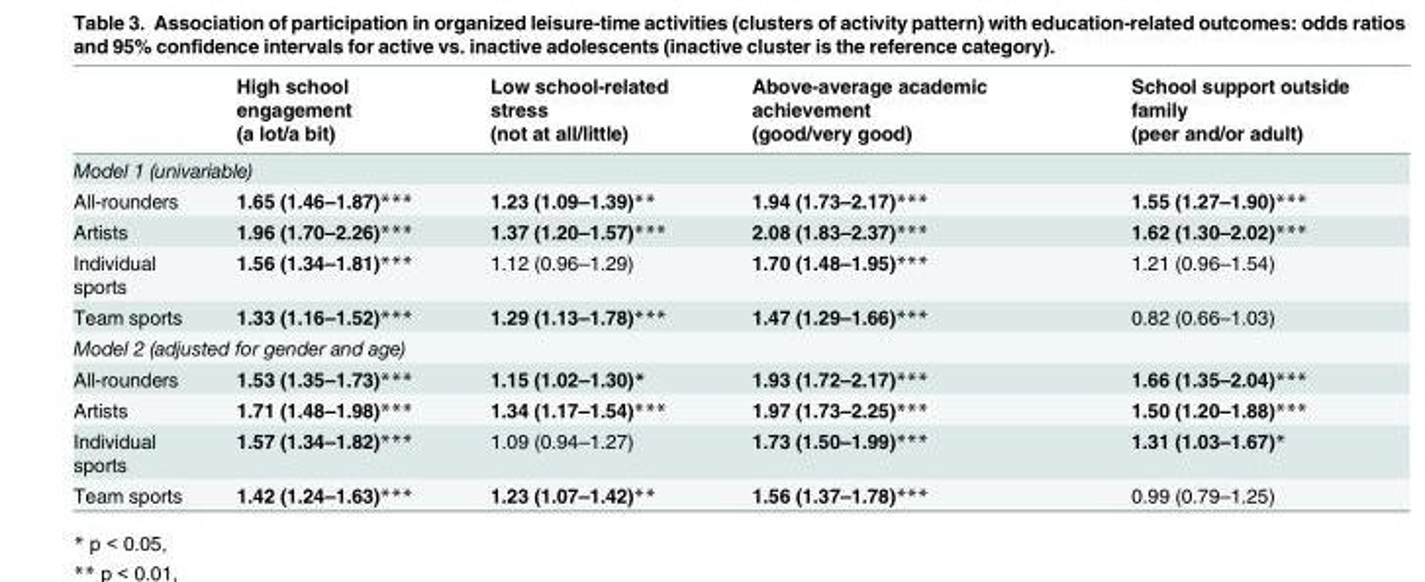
<table><thead><tr><td rowspan="2"></td><td rowspan="2">High school engagement (a lot/a bit)</td><td rowspan="2">Low school-related stress (not at all/little)</td><td rowspan="2">Above-average academic achievement (good/very good)</td><td rowspan="2">School support outside family (peer and/or adult)</td></tr><tr></tr></thead><tbody><tr><td colspan="5">Model 1 (univariable)</td></tr><tr><td>All-rounders</td><td>1.65 (1.46–1.87)***</td><td>1.23 (1.09–1.39)**</td><td>1.94 (1.73–2.17)***</td><td>1.55 (1.27–1.90)***</td></tr><tr><td>Artists</td><td>1.96 (1.70–2.26)***</td><td>1.37 (1.20–1.57)***</td><td>2.08 (1.83–2.37)***</td><td>1.62 (1.30–2.02)***</td></tr><tr><td>Individual sports</td><td>1.56 (1.34–1.81)***</td><td>1.12 (0.96–1.29)</td><td>1.70 (1.48–1.95)***</td><td>1.21 (0.96–1.54)</td></tr><tr><td>Team sports</td><td>1.33 (1.16–1.52)***</td><td>1.29 (1.13–1.78)***</td><td>1.47 (1.29–1.66)***</td><td>0.82 (0.66–1.03)</td></tr><tr><td colspan="5">Model 2 (adjusted for gender and age)</td></tr><tr><td>All-rounders</td><td>1.53 (1.35–1.73)***</td><td>1.15 (1.02–1.30)*</td><td>1.93 (1.72–2.17)***</td><td>1.66 (1.35–2.04)***</td></tr><tr><td>Artists</td><td>1.71 (1.48–1.98)***</td><td>1.34 (1.17–1.54)***</td><td>1.97 (1.73–2.25)***</td><td>1.50 (1.20–1.88)***</td></tr><tr><td>Individual sports</td><td>1.57 (1.34–1.82)***</td><td>1.09 (0.94–1.27)</td><td>1.73 (1.50–1.99)***</td><td>1.31 (1.03–1.67)*</td></tr><tr><td>Team sports</td><td>1.42 (1.24–1.63)***</td><td>1.23 (1.07–1.42)**</td><td>1.56 (1.37–1.78)***</td><td>0.99 (0.79–1.25)</td></tr></tbody></table>